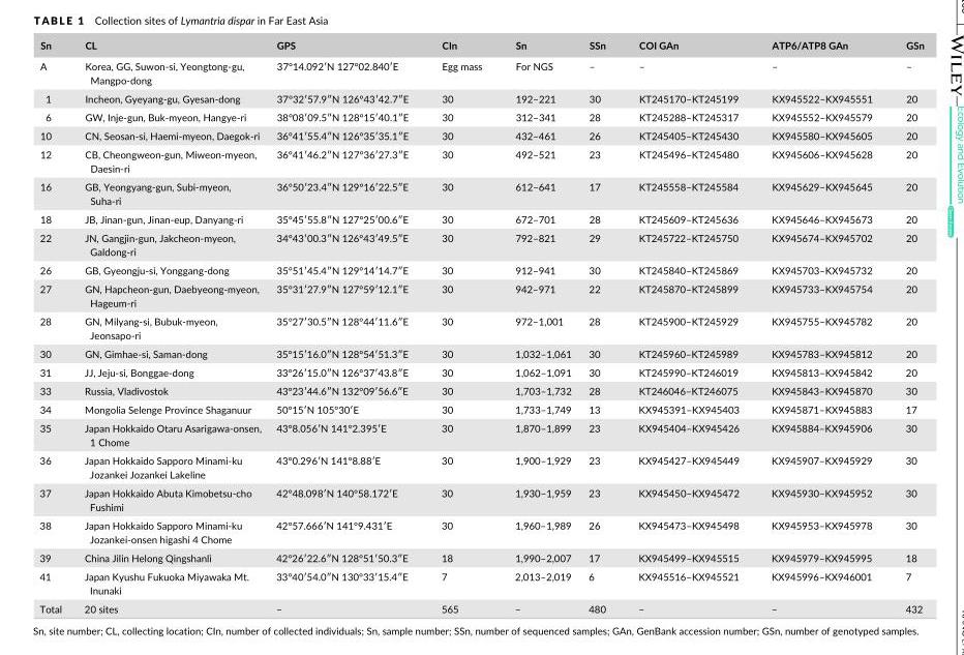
<table><thead><tr><td>Sn</td><td>CL</td><td>GPS</td><td>CIn</td><td>Sn</td><td>SSn</td><td>COI GAn</td><td>ATP6/ATP8 GAn</td><td>GSn</td></tr></thead><tbody><tr><td>A</td><td>Korea, GG, Suwon- si, Yeongtong- gu, Mangpo- dong</td><td>37°14.092′N 127°02.840′E</td><td>Egg mass</td><td>For NGS</td><td>–</td><td>–</td><td>–</td><td>–</td></tr><tr><td>1</td><td>Incheon, Gyeyang- gu, Gyesan- dong</td><td>37°32′57.9″N 126°43′42.7″E</td><td>30</td><td>192–221</td><td>30</td><td>KT245170–KT245199</td><td>KX945522–KX945551</td><td>20</td></tr><tr><td>6</td><td>GW, Inje- gun, Buk- myeon, Hangye- ri</td><td>38°08′09.5″N 128°15′40.1″E</td><td>30</td><td>312–341</td><td>28</td><td>KT245288–KT245317</td><td>KX945552–KX945579</td><td>20</td></tr><tr><td>10</td><td>CN, Seosan- si, Haemi- myeon, Daegok- ri</td><td>36°41′55.4″N 126°35′35.1″E</td><td>30</td><td>432–461</td><td>26</td><td>KT245405–KT245430</td><td>KX945580–KX945605</td><td>20</td></tr><tr><td>12</td><td>CB, Cheongweon- gun, Miweon- myeon, Daesin- ri</td><td>36°41′46.2″N 127°36′27.3″E</td><td>30</td><td>492–521</td><td>23</td><td>KT245496–KT245480</td><td>KX945606–KX945628</td><td>20</td></tr><tr><td>16</td><td>GB, Yeongyang- gun, Subi- myeon, Suha- ri</td><td>36°50′23.4″N 129°16′22.5″E</td><td>30</td><td>612–641</td><td>17</td><td>KT245558–KT245584</td><td>KX945629–KX945645</td><td>20</td></tr><tr><td>18</td><td>JB, Jinan- gun, Jinan- eup, Danyang- ri</td><td>35°45′55.8″N 127°25′00.6″E</td><td>30</td><td>672–701</td><td>28</td><td>KT245609–KT245636</td><td>KX945646–KX945673</td><td>20</td></tr><tr><td>22</td><td>JN, Gangjin- gun, Jakcheon- myeon, Galdong- ri</td><td>34°43′00.3″N 126°43′49.5″E</td><td>30</td><td>792–821</td><td>29</td><td>KT245722–KT245750</td><td>KX945674–KX945702</td><td>20</td></tr><tr><td>26</td><td>GB, Gyeongju- si, Yonggang- dong</td><td>35°51′45.4″N 129°14′14.7″E</td><td>30</td><td>912–941</td><td>30</td><td>KT245840–KT245869</td><td>KX945703–KX945732</td><td>20</td></tr><tr><td>27</td><td>GN, Hapcheon- gun, Daebyeong- myeon, Hageum- ri</td><td>35°31′27.9″N 127°59′12.1″E</td><td>30</td><td>942–971</td><td>22</td><td>KT245870–KT245899</td><td>KX945733–KX945754</td><td>20</td></tr><tr><td>28</td><td>GN, Milyang- si, Bubuk- myeon, Jeonsapo- ri</td><td>35°27′30.5″N 128°44′11.6″E</td><td>30</td><td>972–1,001</td><td>28</td><td>KT245900–KT245929</td><td>KX945755–KX945782</td><td>20</td></tr><tr><td>30</td><td>GN, Gimhae- si, Saman- dong</td><td>35°15′16.0″N 128°54′51.3″E</td><td>30</td><td>1,032–1,061</td><td>30</td><td>KT245960–KT245989</td><td>KX945783–KX945812</td><td>20</td></tr><tr><td>31</td><td>JJ, Jeju- si, Bonggae- dong</td><td>33°26′15.0″N 126°37′43.8″E</td><td>30</td><td>1,062–1,091</td><td>30</td><td>KT245990–KT246019</td><td>KX945813–KX945842</td><td>20</td></tr><tr><td>33</td><td>Russia, Vladivostok</td><td>43°23′44.6″N 132°09′56.6″E</td><td>30</td><td>1,703–1,732</td><td>28</td><td>KT246046–KT246075</td><td>KX945843–KX945870</td><td>30</td></tr><tr><td>34</td><td>Mongolia Selenge Province Shaganuur</td><td>50°15′N 105°30′E</td><td>30</td><td>1,733–1,749</td><td>13</td><td>KX945391–KX945403</td><td>KX945871–KX945883</td><td>17</td></tr><tr><td>35</td><td>Japan Hokkaido Otaru Asarigawa- onsen, 1 Chome</td><td>43°8.056′N 141°2.395′E</td><td>30</td><td>1,870–1,899</td><td>23</td><td>KX945404–KX945426</td><td>KX945884–KX945906</td><td>30</td></tr><tr><td>36</td><td>Japan Hokkaido Sapporo Minami- ku Jozankei Jozankei Lakeline</td><td>43°0.296′N 141°8.88′E</td><td>30</td><td>1,900–1,929</td><td>23</td><td>KX945427–KX945449</td><td>KX945907–KX945929</td><td>30</td></tr><tr><td>37</td><td>Japan Hokkaido Abuta Kimobetsu- cho Fushimi</td><td>42°48.098′N 140°58.172′E</td><td>30</td><td>1,930–1,959</td><td>23</td><td>KX945450–KX945472</td><td>KX945930–KX945952</td><td>30</td></tr><tr><td>38</td><td>Japan Hokkaido Sapporo Minami- ku Jozankei- onsen higashi 4 Chome</td><td>42°57.666′N 141°9.431′E</td><td>30</td><td>1,960–1,989</td><td>26</td><td>KX945473–KX945498</td><td>KX945953–KX945978</td><td>30</td></tr><tr><td>39</td><td>China Jilin Helong Qingshanli</td><td>42°26′22.6″N 128°51′50.3″E</td><td>18</td><td>1,990–2,007</td><td>17</td><td>KX945499–KX945515</td><td>KX945979–KX945995</td><td>18</td></tr><tr><td>41</td><td>Japan Kyushu Fukuoka Miyawaka Mt. Inunaki</td><td>33°40′54.0″N 130°33′15.4″E</td><td>7</td><td>2,013–2,019</td><td>6</td><td>KX945516–KX945521</td><td>KX945996–KX946001</td><td>7</td></tr><tr><td>Total</td><td>20 sites</td><td>–</td><td>565</td><td>–</td><td>480</td><td>–</td><td>–</td><td>432</td></tr></tbody></table>